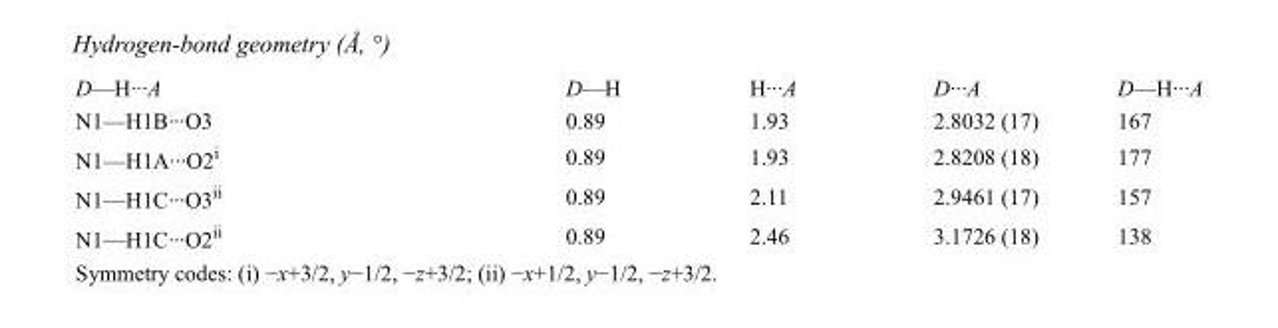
<table><tbody><tr><td>D—H···A</td><td>D—H</td><td>H···A</td><td>D···A</td><td>D—H···A</td></tr><tr><td>N1—H1B···O3</td><td>0.89</td><td>1.93</td><td>2.8032 (17)</td><td>167</td></tr><tr><td>N1—H1A···O2<sup>i</sup></td><td>0.89</td><td>1.93</td><td>2.8208 (18)</td><td>177</td></tr><tr><td>N1—H1C···O3<sup>ii</sup></td><td>0.89</td><td>2.11</td><td>2.9461 (17)</td><td>157</td></tr><tr><td>N1—H1C···O2<sup>ii</sup></td><td>0.89</td><td>2.46</td><td>3.1726 (18)</td><td>138</td></tr></tbody></table>